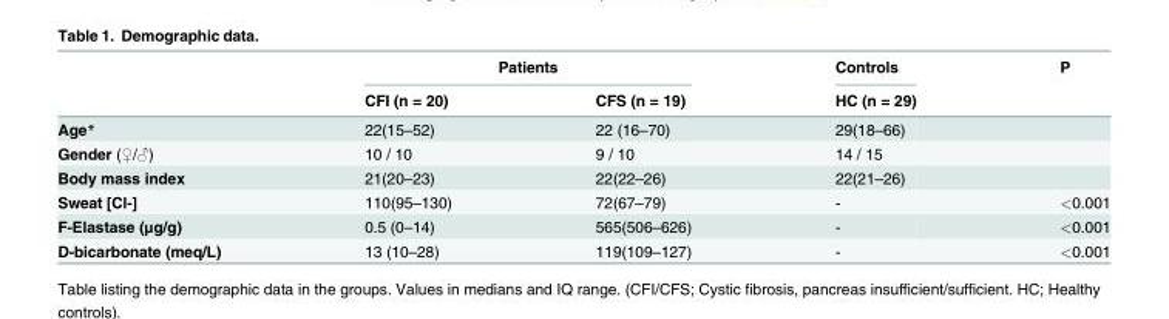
<table><thead><tr><td rowspan="2"></td><td colspan="2">Patients</td><td rowspan="2">Controls HC (n = 29)</td><td rowspan="2">P</td></tr><tr><td>CFI (n = 20)</td><td>CFS (n = 19)</td></tr></thead><tbody><tr><td>Age*</td><td>22(15–52)</td><td>22 (16–70)</td><td>29(18–66)</td><td></td></tr><tr><td>Gender (♀/♂)</td><td>10 / 10</td><td>9 / 10</td><td>14 / 15</td><td></td></tr><tr><td>Body mass index</td><td>21(20–23)</td><td>22(22–26)</td><td>22(21–26)</td><td></td></tr><tr><td>Sweat [Cl-]</td><td>110(95–130)</td><td>72(67–79)</td><td>-</td><td>&lt;0.001</td></tr><tr><td>F-Elastase (μg/g)</td><td>0.5 (0–14)</td><td>565(506–626)</td><td>-</td><td>&lt;0.001</td></tr><tr><td>D-bicarbonate (meq/L)</td><td>13 (10–28)</td><td>119(109–127)</td><td>-</td><td>&lt;0.001</td></tr></tbody></table>